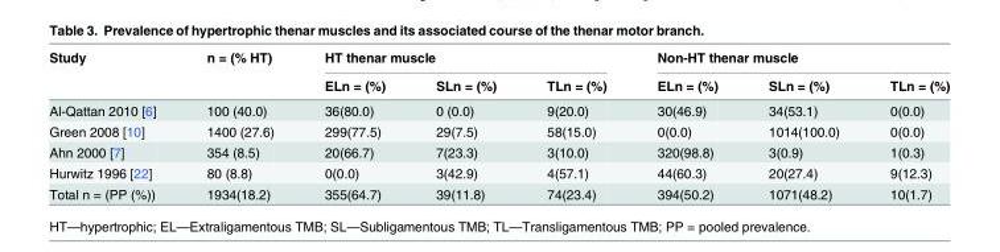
<table><thead><tr><td rowspan="2">Study</td><td rowspan="2">n = (% HT)</td><td colspan="3">HT thenar muscle</td><td colspan="3">Non-HT thenar muscle</td></tr><tr><td>ELn = (%)</td><td>SLn = (%)</td><td>TLn = (%)</td><td>ELn = (%)</td><td>SLn = (%)</td><td>TLn = (%)</td></tr></thead><tbody><tr><td>Al-Qattan 2010 [6]</td><td>100 (40.0)</td><td>36(80.0)</td><td>0 (0.0)</td><td>9(20.0)</td><td>30(46.9)</td><td>34(53.1)</td><td>0(0.0)</td></tr><tr><td>Green 2008 [10]</td><td>1400 (27.6)</td><td>299(77.5)</td><td>29(7.5)</td><td>58(15.0)</td><td>0(0.0)</td><td>1014(100.0)</td><td>0(0.0)</td></tr><tr><td>Ahn 2000 [7]</td><td>354 (8.5)</td><td>20(66.7)</td><td>7(23.3)</td><td>3(10.0)</td><td>320(98.8)</td><td>3(0.9)</td><td>1(0.3)</td></tr><tr><td>Hurwitz 1996 [22]</td><td>80 (8.8)</td><td>0(0.0)</td><td>3(42.9)</td><td>4(57.1)</td><td>44(60.3)</td><td>20(27.4)</td><td>9(12.3)</td></tr><tr><td>Total n = (PP (%))</td><td>1934(18.2)</td><td>355(64.7)</td><td>39(11.8)</td><td>74(23.4)</td><td>394(50.2)</td><td>1071(48.2)</td><td>10(1.7)</td></tr></tbody></table>